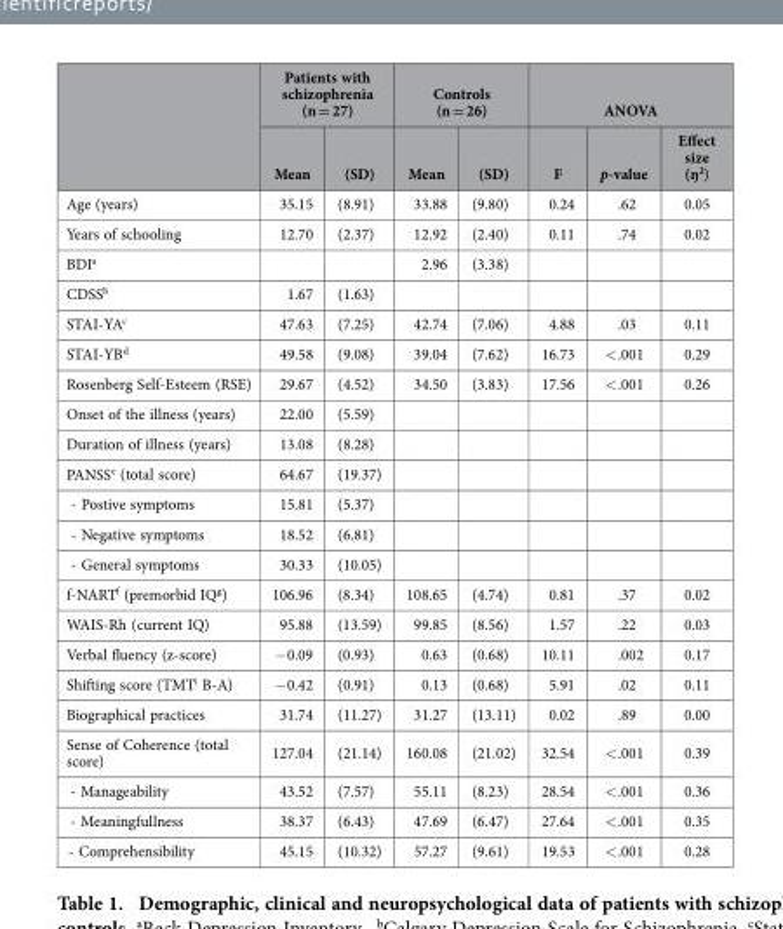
<table><thead><tr><td rowspan="2"></td><td colspan="2">Patients with schizophrenia (n = 27)</td><td colspan="2">Controls (n = 26)</td><td colspan="3">ANOVA</td></tr><tr><td>Mean</td><td>(SD)</td><td>Mean</td><td>(SD)</td><td>F</td><td>p-value</td><td>Effect size (ŋ<sup>2</sup>)</td></tr></thead><tbody><tr><td>Age (years)</td><td>35.15</td><td>(8.91)</td><td>33.88</td><td>(9.80)</td><td>0.24</td><td>.62</td><td>0.05</td></tr><tr><td>Years of schooling</td><td>12.70</td><td>(2.37)</td><td>12.92</td><td>(2.40)</td><td>0.11</td><td>.74</td><td>0.02</td></tr><tr><td>BDI<sup>a</sup></td><td></td><td></td><td>2.96</td><td>(3.38)</td><td></td><td></td><td></td></tr><tr><td>CDSS<sup>b</sup></td><td>1.67</td><td>(1.63)</td><td></td><td></td><td></td><td></td><td></td></tr><tr><td>STAI-YA<sup>c</sup></td><td>47.63</td><td>(7.25)</td><td>42.74</td><td>(7.06)</td><td>4.88</td><td>.03</td><td>0.11</td></tr><tr><td>STAI-YB<sup>d</sup></td><td>49.58</td><td>(9.08)</td><td>39.04</td><td>(7.62)</td><td>16.73</td><td>&lt; .001</td><td>0.29</td></tr><tr><td>Rosenberg Self-Esteem (RSE)</td><td>29.67</td><td>(4.52)</td><td>34.50</td><td>(3.83)</td><td>17.56</td><td>&lt; .001</td><td>0.26</td></tr><tr><td>Onset of the illness (years)</td><td>22.00</td><td>(5.59)</td><td></td><td></td><td></td><td></td><td></td></tr><tr><td>Duration of illness (years)</td><td>13.08</td><td>(8.28)</td><td></td><td></td><td></td><td></td><td></td></tr><tr><td>PANSS<sup>e</sup> (total score)</td><td>64.67</td><td>(19.37)</td><td></td><td></td><td></td><td></td><td></td></tr><tr><td>- Postive symptoms</td><td>15.81</td><td>(5.37)</td><td></td><td></td><td></td><td></td><td></td></tr><tr><td>- Negative symptoms</td><td>18.52</td><td>(6.81)</td><td></td><td></td><td></td><td></td><td></td></tr><tr><td>- General symptoms</td><td>30.33</td><td>(10.05)</td><td></td><td></td><td></td><td></td><td></td></tr><tr><td>f-NART<sup>f</sup> (premorbid IQ<sup>g</sup>)</td><td>106.96</td><td>(8.34)</td><td>108.65</td><td>(4.74)</td><td>0.81</td><td>.37</td><td>0.02</td></tr><tr><td>WAIS-Rh (current IQ)</td><td>95.88</td><td>(13.59)</td><td>99.85</td><td>(8.56)</td><td>1.57</td><td>.22</td><td>0.03</td></tr><tr><td>Verbal fluency (z-score)</td><td>− 0.09</td><td>(0.93)</td><td>0.63</td><td>(0.68)</td><td>10.11</td><td>.002</td><td>0.17</td></tr><tr><td>Shifting score (TMT<sup>i</sup> B-A)</td><td>− 0.42</td><td>(0.91)</td><td>0.13</td><td>(0.68)</td><td>5.91</td><td>.02</td><td>0.11</td></tr><tr><td>Biographical practices</td><td>31.74</td><td>(11.27)</td><td>31.27</td><td>(13.11)</td><td>0.02</td><td>.89</td><td>0.00</td></tr><tr><td>Sense of Coherence (total score)</td><td>127.04</td><td>(21.14)</td><td>160.08</td><td>(21.02)</td><td>32.54</td><td>&lt; .001</td><td>0.39</td></tr><tr><td>- Manageability</td><td>43.52</td><td>(7.57)</td><td>55.11</td><td>(8.23)</td><td>28.54</td><td>&lt; .001</td><td>0.36</td></tr><tr><td>- Meaningfullness</td><td>38.37</td><td>(6.43)</td><td>47.69</td><td>(6.47)</td><td>27.64</td><td>&lt; .001</td><td>0.35</td></tr><tr><td>- Comprehensibility</td><td>45.15</td><td>(10.32)</td><td>57.27</td><td>(9.61)</td><td>19.53</td><td>&lt; .001</td><td>0.28</td></tr></tbody></table>